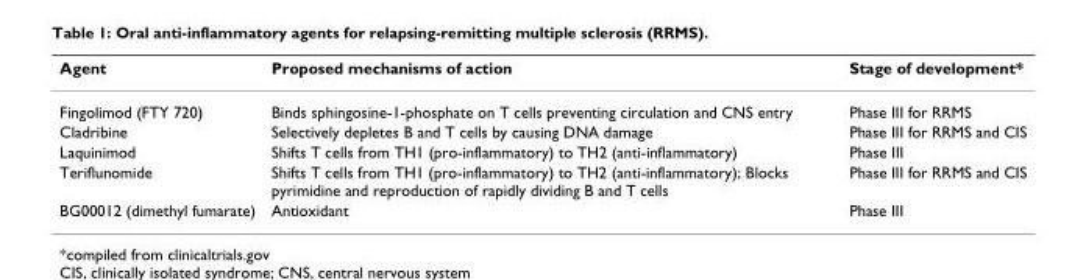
<table><thead><tr><td>Agent</td><td>Proposed mechanisms of action</td><td>Stage of development*</td></tr></thead><tbody><tr><td>Fingolimod (FTY 720)</td><td>Binds sphingosine-1-phosphate on T cells preventing circulation and CNS entry</td><td>Phase III for RRMS</td></tr><tr><td>Cladribine</td><td>Selectively depletes B and T cells by causing DNA damage</td><td>Phase III for RRMS and CIS</td></tr><tr><td>Laquinimod</td><td>Shifts T cells from TH1 (pro-inflammatory) to TH2 (anti-inflammatory)</td><td>Phase III</td></tr><tr><td>Teriflunomide</td><td>Shifts T cells from TH1 (pro-inflammatory) to TH2 (anti-inflammatory); Blocks pyrimidine and reproduction of rapidly dividing B and T cells</td><td>Phase III for RRMS and CIS</td></tr><tr><td>BG00012 (dimethyl fumarate)</td><td>Antioxidant</td><td>Phase III</td></tr></tbody></table>